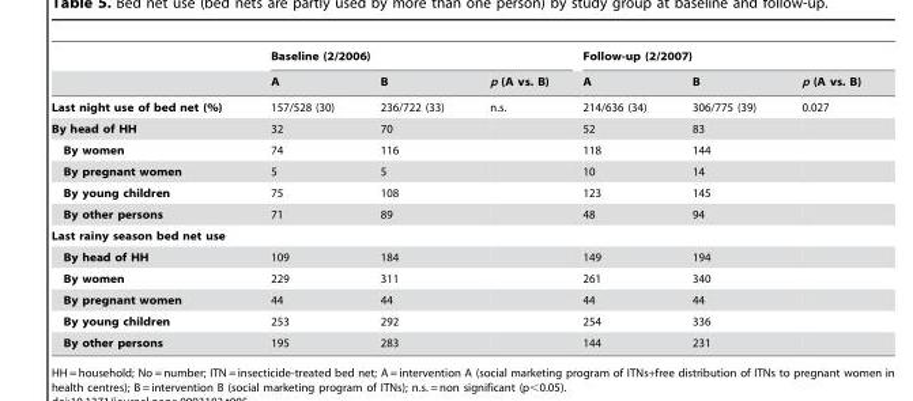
<table><thead><tr><td rowspan="2"></td><td colspan="3">Baseline (2/2006)</td><td colspan="3">Follow-up (2/2007)</td></tr><tr><td>A</td><td>B</td><td>p (A vs. B)</td><td>A</td><td>B</td><td>p (A vs. B)</td></tr></thead><tbody><tr><td>Last night use of bed net (%)</td><td>157/528 (30)</td><td>236/722 (33)</td><td>n.s.</td><td>214/636 (34)</td><td>306/775 (39)</td><td>0.027</td></tr><tr><td>By head of HH</td><td>32</td><td>70</td><td></td><td>52</td><td>83</td><td></td></tr><tr><td>By women</td><td>74</td><td>116</td><td></td><td>118</td><td>144</td><td></td></tr><tr><td>By pregnant women</td><td>5</td><td>5</td><td></td><td>10</td><td>14</td><td></td></tr><tr><td>By young children</td><td>75</td><td>108</td><td></td><td>123</td><td>145</td><td></td></tr><tr><td>By other persons</td><td>71</td><td>89</td><td></td><td>48</td><td>94</td><td></td></tr><tr><td colspan="7">Last rainy season bed net use</td></tr><tr><td>By head of HH</td><td>109</td><td>184</td><td></td><td>149</td><td>194</td><td></td></tr><tr><td>By women</td><td>229</td><td>311</td><td></td><td>261</td><td>340</td><td></td></tr><tr><td>By pregnant women</td><td>44</td><td>44</td><td></td><td>44</td><td>44</td><td></td></tr><tr><td>By young children</td><td>253</td><td>292</td><td></td><td>254</td><td>336</td><td></td></tr><tr><td>By other persons</td><td>195</td><td>283</td><td></td><td>144</td><td>231</td><td></td></tr></tbody></table>